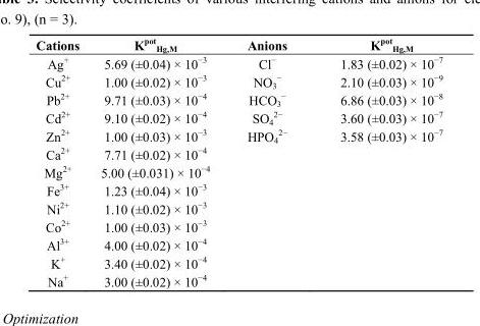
<table><thead><tr><td>Cations</td><td>K<sup>pot</sup> <sub>Hg,M</sub></td><td>Anions</td><td>K<sup>pot</sup> <sub>Hg,M</sub></td></tr></thead><tbody><tr><td>Ag<sup>+</sup></td><td>5.69 (±0.04) × 10<sup>−3</sup></td><td>Cl<sup>−</sup></td><td>1.83 (±0.02) × 10<sup>−7</sup></td></tr><tr><td>Cu<sup>2+</sup></td><td>1.00 (±0.02) × 10<sup>−3</sup></td><td>NO<sub>3</sub> <sup>−</sup></td><td>2.10 (±0.03) × 10<sup>−9</sup></td></tr><tr><td>Pb<sup>2+</sup></td><td>9.71 (±0.03) × 10<sup>−4</sup></td><td>HCO<sub>3</sub> <sup>−</sup></td><td>6.86 (±0.03) × 10<sup>−8</sup></td></tr><tr><td>Cd<sup>2+</sup></td><td>9.10 (±0.02) × 10<sup>−4</sup></td><td>SO<sub>4</sub> <sup>2−</sup></td><td>3.60 (±0.03) × 10<sup>−7</sup></td></tr><tr><td>Zn<sup>2+</sup></td><td>1.00 (±0.03) × 10<sup>−3</sup></td><td>HPO<sub>4</sub> <sup>2−</sup></td><td>3.58 (±0.03) × 10<sup>−7</sup></td></tr><tr><td>Ca<sup>2+</sup></td><td>7.71 (±0.02) × 10<sup>−4</sup></td><td></td><td></td></tr><tr><td>Mg<sup>2+</sup></td><td>5.00 (±0.031) × 10<sup>−4</sup></td><td></td><td></td></tr><tr><td>Fe<sup>3+</sup></td><td>1.23 (±0.04) × 10<sup>−3</sup></td><td></td><td></td></tr><tr><td>Ni<sup>2+</sup></td><td>1.10 (±0.02) × 10<sup>−3</sup></td><td></td><td></td></tr><tr><td>Co<sup>2+</sup></td><td>1.00 (±0.03) × 10<sup>−3</sup></td><td></td><td></td></tr><tr><td>Al<sup>3+</sup></td><td>4.00 (±0.02) × 10<sup>−4</sup></td><td></td><td></td></tr><tr><td>K<sup>+</sup></td><td>3.40 (±0.02) × 10<sup>−4</sup></td><td></td><td></td></tr><tr><td>Na<sup>+</sup></td><td>3.00 (±0.02) × 10<sup>−4</sup></td><td></td><td></td></tr></tbody></table>